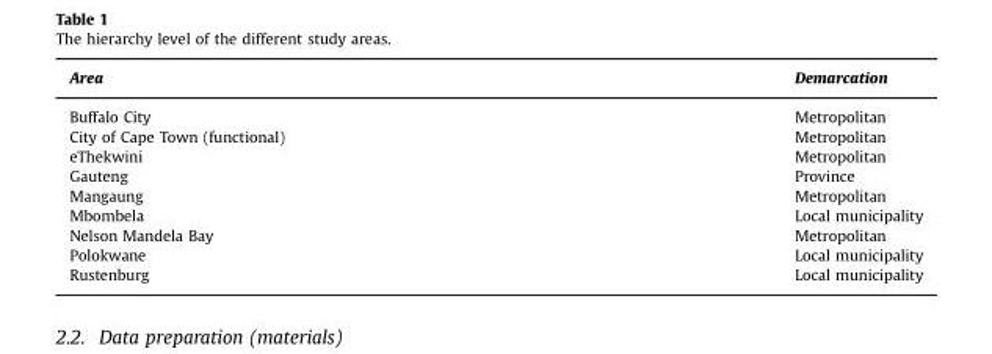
<table><thead><tr><td>Area</td><td>Demarcation</td></tr></thead><tbody><tr><td>Buffalo City</td><td>Metropolitan</td></tr><tr><td>City of Cape Town (functional)</td><td>Metropolitan</td></tr><tr><td>eThekwini</td><td>Metropolitan</td></tr><tr><td>Gauteng</td><td>Province</td></tr><tr><td>Mangaung</td><td>Metropolitan</td></tr><tr><td>Mbombela</td><td>Local municipality</td></tr><tr><td>Nelson Mandela Bay</td><td>Metropolitan</td></tr><tr><td>Polokwane</td><td>Local municipality</td></tr><tr><td>Rustenburg</td><td>Local municipality</td></tr></tbody></table>